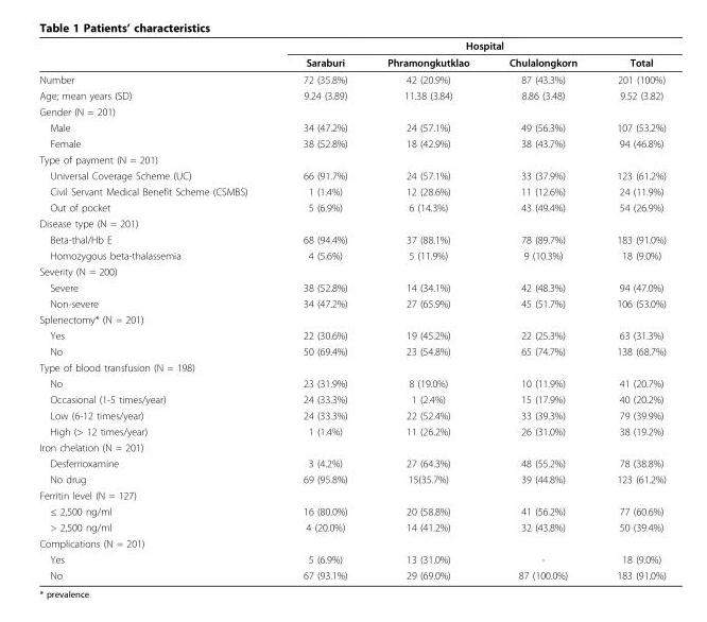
<table><thead><tr><td rowspan="2"></td><td colspan="4">Hospital</td></tr><tr><td>Saraburi</td><td>Phramongkutklao</td><td>Chulalongkorn</td><td>Total</td></tr></thead><tbody><tr><td>Number</td><td>72 (35.8%)</td><td>42 (20.9%)</td><td>87 (43.3%)</td><td>201 (100%)</td></tr><tr><td>Age; mean years (SD)</td><td>9.24 (3.89)</td><td>11.38 (3.84)</td><td>8.86 (3.48)</td><td>9.52 (3.82)</td></tr><tr><td colspan="5">Gender (N = 201)</td></tr><tr><td>Male</td><td>34 (47.2%)</td><td>24 (57.1%)</td><td>49 (56.3%)</td><td>107 (53.2%)</td></tr><tr><td>Female</td><td>38 (52.8%)</td><td>18 (42.9%)</td><td>38 (43.7%)</td><td>94 (46.8%)</td></tr><tr><td colspan="5">Type of payment (N = 201)</td></tr><tr><td>Universal Coverage Scheme (UC)</td><td>66 (91.7%)</td><td>24 (57.1%)</td><td>33 (37.9%)</td><td>123 (61.2%)</td></tr><tr><td>Civil Servant Medical Benefit Scheme (CSMBS)</td><td>1 (1.4%)</td><td>12 (28.6%)</td><td>11 (12.6%)</td><td>24 (11.9%)</td></tr><tr><td>Out of pocket</td><td>5 (6.9%)</td><td>6 (14.3%)</td><td>43 (49.4%)</td><td>54 (26.9%)</td></tr><tr><td colspan="5">Disease type (N = 201)</td></tr><tr><td>Beta-thal/Hb E</td><td>68 (94.4%)</td><td>37 (88.1%)</td><td>78 (89.7%)</td><td>183 (91.0%)</td></tr><tr><td>Homozygous beta-thalassemia</td><td>4 (5.6%)</td><td>5 (11.9%)</td><td>9 (10.3%)</td><td>18 (9.0%)</td></tr><tr><td colspan="5">Severity (N = 200)</td></tr><tr><td>Severe</td><td>38 (52.8%)</td><td>14 (34.1%)</td><td>42 (48.3%)</td><td>94 (47.0%)</td></tr><tr><td>Non-severe</td><td>34 (47.2%)</td><td>27 (65.9%)</td><td>45 (51.7%)</td><td>106 (53.0%)</td></tr><tr><td colspan="5">Splenectomy* (N = 201)</td></tr><tr><td>Yes</td><td>22 (30.6%)</td><td>19 (45.2%)</td><td>22 (25.3%)</td><td>63 (31.3%)</td></tr><tr><td>No</td><td>50 (69.4%)</td><td>23 (54.8%)</td><td>65 (74.7%)</td><td>138 (68.7%)</td></tr><tr><td colspan="5">Type of blood transfusion (N = 198)</td></tr><tr><td>No</td><td>23 (31.9%)</td><td>8 (19.0%)</td><td>10 (11.9%)</td><td>41 (20.7%)</td></tr><tr><td>Occasional (1-5 times/year)</td><td>24 (33.3%)</td><td>1 (2.4%)</td><td>15 (17.9%)</td><td>40 (20.2%)</td></tr><tr><td>Low (6-12 times/year)</td><td>24 (33.3%)</td><td>22 (52.4%)</td><td>33 (39.3%)</td><td>79 (39.9%)</td></tr><tr><td>High (&gt; 12 times/year)</td><td>1 (1.4%)</td><td>11 (26.2%)</td><td>26 (31.0%)</td><td>38 (19.2%)</td></tr><tr><td colspan="5">Iron chelation (N = 201)</td></tr><tr><td>Desferrioxamine</td><td>3 (4.2%)</td><td>27 (64.3%)</td><td>48 (55.2%)</td><td>78 (38.8%)</td></tr><tr><td>No drug</td><td>69 (95.8%)</td><td>15(35.7%)</td><td>39 (44.8%)</td><td>123 (61.2%)</td></tr><tr><td colspan="5">Ferritin level (N = 127)</td></tr><tr><td>≤ 2,500 ng/ml</td><td>16 (80.0%)</td><td>20 (58.8%)</td><td>41 (56.2%)</td><td>77 (60.6%)</td></tr><tr><td>&gt; 2,500 ng/ml</td><td>4 (20.0%)</td><td>14 (41.2%)</td><td>32 (43.8%)</td><td>50 (39.4%)</td></tr><tr><td colspan="5">Complications (N = 201)</td></tr><tr><td>Yes</td><td>5 (6.9%)</td><td>13 (31.0%)</td><td>-</td><td>18 (9.0%)</td></tr><tr><td>No</td><td>67 (93.1%)</td><td>29 (69.0%)</td><td>87 (100.0%)</td><td>183 (91.0%)</td></tr></tbody></table>